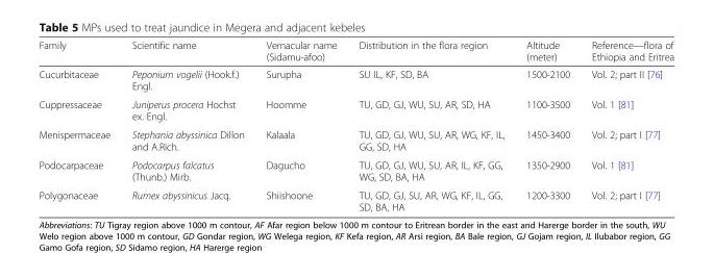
<table><thead><tr><td>Family</td><td>Scientific name</td><td>Vernacular name (Sidamu-afoo)</td><td>Distribution in the flora region</td><td>Altitude (meter)</td><td>Reference—flora of Ethiopia and Eritrea</td></tr></thead><tbody><tr><td>Cucurbitaceae</td><td>Peponium vogelii (Hook.f.) Engl.</td><td>Surupha</td><td>SU IL, KF, SD, BA</td><td>1500-2100</td><td>Vol. 2; part II [76]</td></tr><tr><td>Cuppressaceae</td><td>Juniperus procera Hochst ex. Engl.</td><td>Hoomme</td><td>TU, GD, GJ, WU, SU, AR, SD, HA</td><td>1100-3500</td><td>Vol. 1 [81]</td></tr><tr><td>Menispermaceae</td><td>Stephania abyssinica Dillon and A.Rich.</td><td>Kalaala</td><td>TU, GD, GJ, WU, SU, AR, WG, KF, IL, GG, SD, HA</td><td>1450-3400</td><td>Vol. 2; part I [77]</td></tr><tr><td>Podocarpaceae</td><td>Podocarpus falcatus (Thunb.) Mirb.</td><td>Dagucho</td><td>TU, GD, GJ, WU, SU, AR, IL, KF, GG, WG, SD, BA, HA</td><td>1350-2900</td><td>Vol. 1 [81]</td></tr><tr><td>Polygonaceae</td><td>Rumex abyssinicus Jacq.</td><td>Shiishoone</td><td>TU, GD, GJ, SU, AR, WG, KF, IL, GG, SD, BA, HA</td><td>1200-3300</td><td>Vol. 2; part I [77]</td></tr></tbody></table>